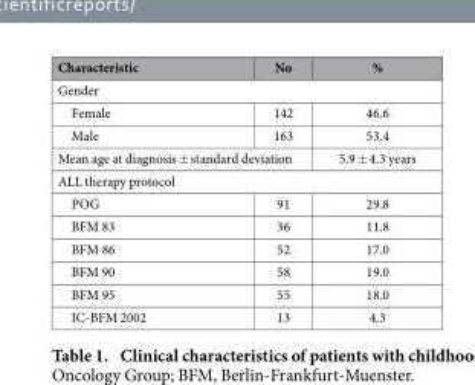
<table><thead><tr><td>Characteristic</td><td>No</td><td>%</td></tr></thead><tbody><tr><td colspan="3">Gender</td></tr><tr><td>Female</td><td>142</td><td>46.6</td></tr><tr><td>Male</td><td>163</td><td>53.4</td></tr><tr><td colspan="2">Mean age at diagnosis ± standard deviation</td><td>5.9 ± 4.3 years</td></tr><tr><td colspan="3">ALL therapy protocol</td></tr><tr><td>POG</td><td>91</td><td>29.8</td></tr><tr><td>BFM 83</td><td>36</td><td>11.8</td></tr><tr><td>BFM 86</td><td>52</td><td>17.0</td></tr><tr><td>BFM 90</td><td>58</td><td>19.0</td></tr><tr><td>BFM 95</td><td>55</td><td>18.0</td></tr><tr><td>IC-BFM 2002</td><td>13</td><td>4.3</td></tr></tbody></table>